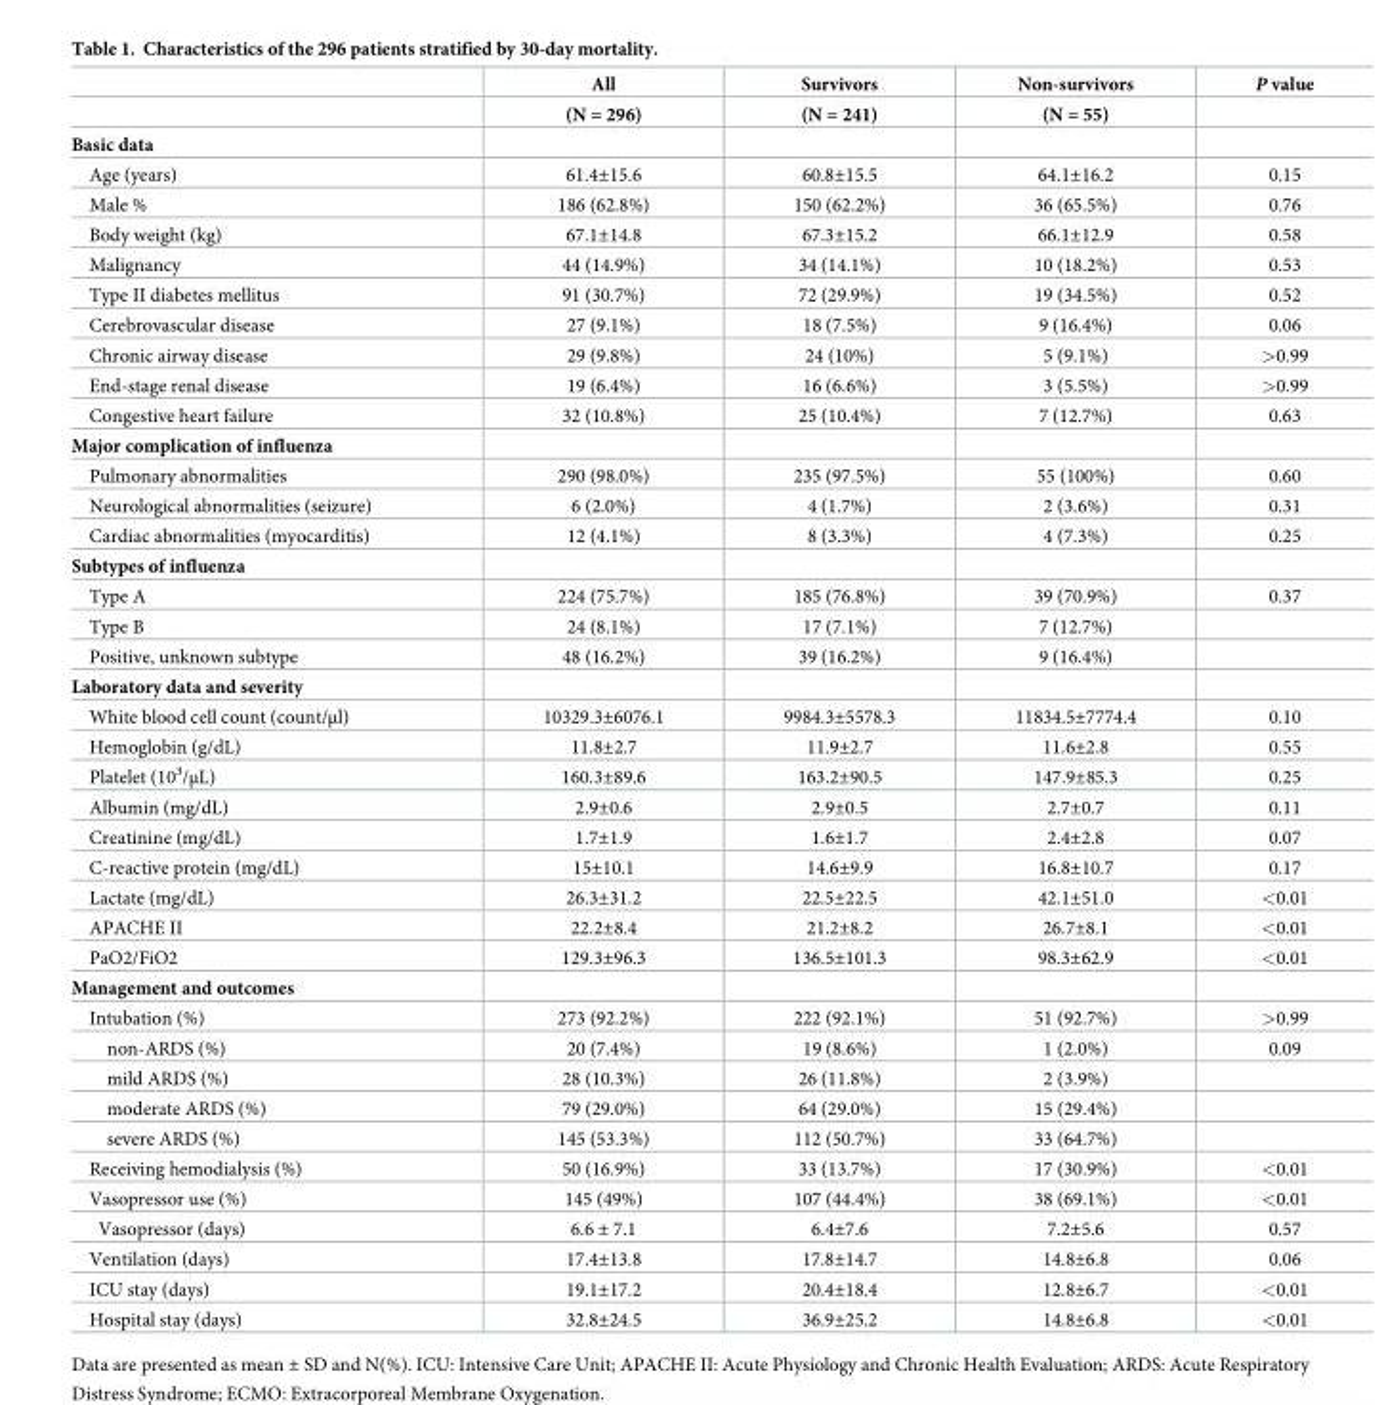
<table><thead><tr><td rowspan="2"></td><td rowspan="2">All (N = 296)</td><td rowspan="2">Survivors (N = 241)</td><td rowspan="2">Non-survivors (N = 55)</td><td rowspan="2">P value</td></tr><tr></tr></thead><tbody><tr><td colspan="5">Basic data</td></tr><tr><td>Age (years)</td><td>61.4±15.6</td><td>60.8±15.5</td><td>64.1±16.2</td><td>0.15</td></tr><tr><td>Male %</td><td>186 (62.8%)</td><td>150 (62.2%)</td><td>36 (65.5%)</td><td>0.76</td></tr><tr><td>Body weight (kg)</td><td>67.1±14.8</td><td>67.3±15.2</td><td>66.1±12.9</td><td>0.58</td></tr><tr><td>Malignancy</td><td>44 (14.9%)</td><td>34 (14.1%)</td><td>10 (18.2%)</td><td>0.53</td></tr><tr><td>Type II diabetes mellitus</td><td>91 (30.7%)</td><td>72 (29.9%)</td><td>19 (34.5%)</td><td>0.52</td></tr><tr><td>Cerebrovascular disease</td><td>27 (9.1%)</td><td>18 (7.5%)</td><td>9 (16.4%)</td><td>0.06</td></tr><tr><td>Chronic airway disease</td><td>29 (9.8%)</td><td>24 (10%)</td><td>5 (9.1%)</td><td>&gt;0.99</td></tr><tr><td>End-stage renal disease</td><td>19 (6.4%)</td><td>16 (6.6%)</td><td>3 (5.5%)</td><td>&gt;0.99</td></tr><tr><td>Congestive heart failure</td><td>32 (10.8%)</td><td>25 (10.4%)</td><td>7 (12.7%)</td><td>0.63</td></tr><tr><td colspan="5">Major complication of influenza</td></tr><tr><td>Pulmonary abnormalities</td><td>290 (98.0%)</td><td>235 (97.5%)</td><td>55 (100%)</td><td>0.60</td></tr><tr><td>Neurological abnormalities (seizure)</td><td>6 (2.0%)</td><td>4 (1.7%)</td><td>2 (3.6%)</td><td>0.31</td></tr><tr><td>Cardiac abnormalities (myocarditis)</td><td>12 (4.1%)</td><td>8 (3.3%)</td><td>4 (7.3%)</td><td>0.25</td></tr><tr><td colspan="5">Subtypes of influenza</td></tr><tr><td>Type A</td><td>224 (75.7%)</td><td>185 (76.8%)</td><td>39 (70.9%)</td><td>0.37</td></tr><tr><td>Type B</td><td>24 (8.1%)</td><td>17 (7.1%)</td><td>7 (12.7%)</td><td></td></tr><tr><td>Positive, unknown subtype</td><td>48 (16.2%)</td><td>39 (16.2%)</td><td>9 (16.4%)</td><td></td></tr><tr><td colspan="5">Laboratory data and severity</td></tr><tr><td>White blood cell count (count/μl)</td><td>10329.3±6076.1</td><td>9984.3±5578.3</td><td>11834.5±7774.4</td><td>0.10</td></tr><tr><td>Hemoglobin (g/dL)</td><td>11.8±2.7</td><td>11.9±2.7</td><td>11.6±2.8</td><td>0.55</td></tr><tr><td>Platelet (10<sup>3</sup>/μL)</td><td>160.3±89.6</td><td>163.2±90.5</td><td>147.9±85.3</td><td>0.25</td></tr><tr><td>Albumin (mg/dL)</td><td>2.9±0.6</td><td>2.9±0.5</td><td>2.7±0.7</td><td>0.11</td></tr><tr><td>Creatinine (mg/dL)</td><td>1.7±1.9</td><td>1.6±1.7</td><td>2.4±2.8</td><td>0.07</td></tr><tr><td>C-reactive protein (mg/dL)</td><td>15±10.1</td><td>14.6±9.9</td><td>16.8±10.7</td><td>0.17</td></tr><tr><td>Lactate (mg/dL)</td><td>26.3±31.2</td><td>22.5±22.5</td><td>42.1±51.0</td><td>&lt;0.01</td></tr><tr><td>APACHE II</td><td>22.2±8.4</td><td>21.2±8.2</td><td>26.7±8.1</td><td>&lt;0.01</td></tr><tr><td>PaO2/FiO2</td><td>129.3±96.3</td><td>136.5±101.3</td><td>98.3±62.9</td><td>&lt;0.01</td></tr><tr><td colspan="5">Management and outcomes</td></tr><tr><td>Intubation (%)</td><td>273 (92.2%)</td><td>222 (92.1%)</td><td>51 (92.7%)</td><td>&gt;0.99</td></tr><tr><td>non-ARDS (%)</td><td>20 (7.4%)</td><td>19 (8.6%)</td><td>1 (2.0%)</td><td>0.09</td></tr><tr><td>mild ARDS (%)</td><td>28 (10.3%)</td><td>26 (11.8%)</td><td>2 (3.9%)</td><td></td></tr><tr><td>moderate ARDS (%)</td><td>79 (29.0%)</td><td>64 (29.0%)</td><td>15 (29.4%)</td><td></td></tr><tr><td>severe ARDS (%)</td><td>145 (53.3%)</td><td>112 (50.7%)</td><td>33 (64.7%)</td><td></td></tr><tr><td>Receiving hemodialysis (%)</td><td>50 (16.9%)</td><td>33 (13.7%)</td><td>17 (30.9%)</td><td>&lt;0.01</td></tr><tr><td>Vasopressor use (%)</td><td>145 (49%)</td><td>107 (44.4%)</td><td>38 (69.1%)</td><td>&lt;0.01</td></tr><tr><td>Vasopressor (days)</td><td>6.6 ± 7.1</td><td>6.4±7.6</td><td>7.2±5.6</td><td>0.57</td></tr><tr><td>Ventilation (days)</td><td>17.4±13.8</td><td>17.8±14.7</td><td>14.8±6.8</td><td>0.06</td></tr><tr><td>ICU stay (days)</td><td>19.1±17.2</td><td>20.4±18.4</td><td>12.8±6.7</td><td>&lt;0.01</td></tr><tr><td>Hospital stay (days)</td><td>32.8±24.5</td><td>36.9±25.2</td><td>14.8±6.8</td><td>&lt;0.01</td></tr></tbody></table>